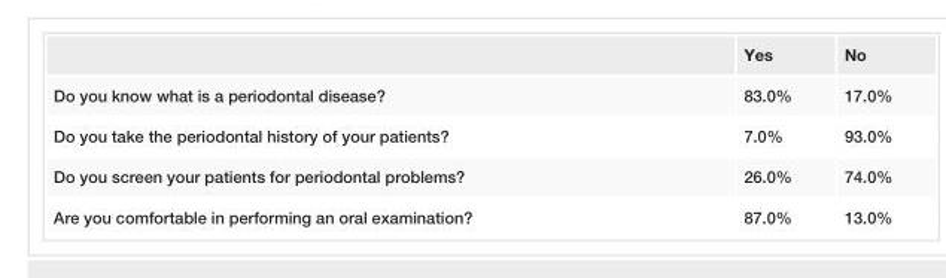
<table><thead><tr><td></td><td>Yes</td><td>No</td></tr></thead><tbody><tr><td>Do you know what is a periodontal disease?</td><td>83.0%</td><td>17.0%</td></tr><tr><td>Do you take the periodontal history of your patients?</td><td>7.0%</td><td>93.0%</td></tr><tr><td>Do you screen your patients for periodontal problems?</td><td>26.0%</td><td>74.0%</td></tr><tr><td>Are you comfortable in performing an oral examination?</td><td>87.0%</td><td>13.0%</td></tr></tbody></table>